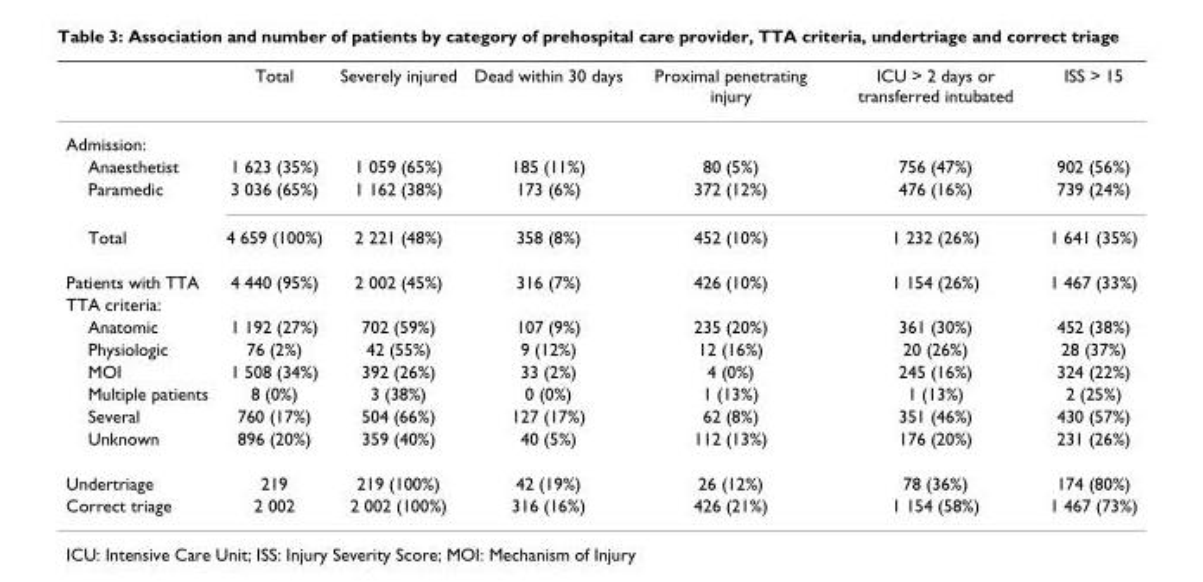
<table><thead><tr><td></td><td>Total</td><td>Severely injured</td><td>Dead within 30 days</td><td>Proximal penetrating injury</td><td>ICU &gt; 2 days or transferred intubated</td><td>ISS &gt; 15</td></tr></thead><tbody><tr><td colspan="7">Admission:</td></tr><tr><td>Anaesthetist</td><td>1 623 (35%)</td><td>1 059 (65%)</td><td>185 (11%)</td><td>80 (5%)</td><td>756 (47%)</td><td>902 (56%)</td></tr><tr><td>Paramedic</td><td>3 036 (65%)</td><td>1 162 (38%)</td><td>173 (6%)</td><td>372 (12%)</td><td>476 (16%)</td><td>739 (24%)</td></tr><tr><td>Total</td><td>4 659 (100%)</td><td>2 221 (48%)</td><td>358 (8%)</td><td>452 (10%)</td><td>1 232 (26%)</td><td>1 641 (35%)</td></tr><tr><td>Patients with TTA</td><td>4 440 (95%)</td><td>2 002 (45%)</td><td>316 (7%)</td><td>426 (10%)</td><td>1 154 (26%)</td><td>1 467 (33%)</td></tr><tr><td colspan="7">TTA criteria:</td></tr><tr><td>Anatomic</td><td>1 192 (27%)</td><td>702 (59%)</td><td>107 (9%)</td><td>235 (20%)</td><td>361 (30%)</td><td>452 (38%)</td></tr><tr><td>Physiologic</td><td>76 (2%)</td><td>42 (55%)</td><td>9 (12%)</td><td>12 (16%)</td><td>20 (26%)</td><td>28 (37%)</td></tr><tr><td>MOI</td><td>1 508 (34%)</td><td>392 (26%)</td><td>33 (2%)</td><td>4 (0%)</td><td>245 (16%)</td><td>324 (22%)</td></tr><tr><td>Multiple patients</td><td>8 (0%)</td><td>3 (38%)</td><td>0 (0%)</td><td>1 (13%)</td><td>1 (13%)</td><td>2 (25%)</td></tr><tr><td>Several</td><td>760 (17%)</td><td>504 (66%)</td><td>127 (17%)</td><td>62 (8%)</td><td>351 (46%)</td><td>430 (57%)</td></tr><tr><td>Unknown</td><td>896 (20%)</td><td>359 (40%)</td><td>40 (5%)</td><td>112 (13%)</td><td>176 (20%)</td><td>231 (26%)</td></tr><tr><td>Undertriage</td><td>219</td><td>219 (100%)</td><td>42 (19%)</td><td>26 (12%)</td><td>78 (36%)</td><td>174 (80%)</td></tr><tr><td>Correct triage</td><td>2 002</td><td>2 002 (100%)</td><td>316 (16%)</td><td>426 (21%)</td><td>1 154 (58%)</td><td>1 467 (73%)</td></tr></tbody></table>